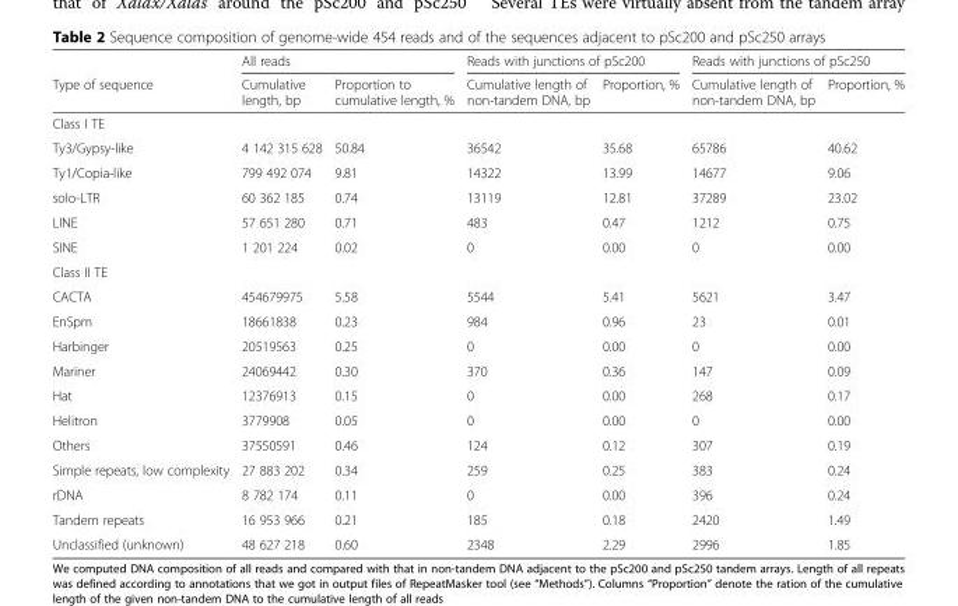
<table><thead><tr><td rowspan="2">Type of sequence</td><td colspan="2">All reads</td><td colspan="2">Reads with junctions of pSc200</td><td colspan="2">Reads with junctions of pSc250</td></tr><tr><td>Cumulative length, bp</td><td>Proportion to cumulative length, %</td><td>Cumulative length of non-tandem DNA, bp</td><td>Proportion, %</td><td>Cumulative length of non-tandem DNA, bp</td><td>Proportion, %</td></tr></thead><tbody><tr><td colspan="7">Class I TE</td></tr><tr><td>Ty3/Gypsy-like</td><td>4 142 315 628</td><td>50.84</td><td>36542</td><td>35.68</td><td>65786</td><td>40.62</td></tr><tr><td>Ty1/Copia-like</td><td>799 492 074</td><td>9.81</td><td>14322</td><td>13.99</td><td>14677</td><td>9.06</td></tr><tr><td>solo-LTR</td><td>60 362 185</td><td>0.74</td><td>13119</td><td>12.81</td><td>37289</td><td>23.02</td></tr><tr><td>LINE</td><td>57 651 280</td><td>0.71</td><td>483</td><td>0.47</td><td>1212</td><td>0.75</td></tr><tr><td>SINE</td><td>1 201 224</td><td>0.02</td><td>0</td><td>0.00</td><td>0</td><td>0.00</td></tr><tr><td colspan="7">Class II TE</td></tr><tr><td>CACTA</td><td>454679975</td><td>5.58</td><td>5544</td><td>5.41</td><td>5621</td><td>3.47</td></tr><tr><td>EnSpm</td><td>18661838</td><td>0.23</td><td>984</td><td>0.96</td><td>23</td><td>0.01</td></tr><tr><td>Harbinger</td><td>20519563</td><td>0.25</td><td>0</td><td>0.00</td><td>0</td><td>0.00</td></tr><tr><td>Mariner</td><td>24069442</td><td>0.30</td><td>370</td><td>0.36</td><td>147</td><td>0.09</td></tr><tr><td>Hat</td><td>12376913</td><td>0.15</td><td>0</td><td>0.00</td><td>268</td><td>0.17</td></tr><tr><td>Helitron</td><td>3779908</td><td>0.05</td><td>0</td><td>0.00</td><td>0</td><td>0.00</td></tr><tr><td>Others</td><td>37550591</td><td>0.46</td><td>124</td><td>0.12</td><td>307</td><td>0.19</td></tr><tr><td>Simple repeats, low complexity</td><td>27 883 202</td><td>0.34</td><td>259</td><td>0.25</td><td>383</td><td>0.24</td></tr><tr><td>rDNA</td><td>8 782 174</td><td>0.11</td><td>0</td><td>0.00</td><td>396</td><td>0.24</td></tr><tr><td>Tandem repeats</td><td>16 953 966</td><td>0.21</td><td>185</td><td>0.18</td><td>2420</td><td>1.49</td></tr><tr><td>Unclassified (unknown)</td><td>48 627 218</td><td>0.60</td><td>2348</td><td>2.29</td><td>2996</td><td>1.85</td></tr></tbody></table>